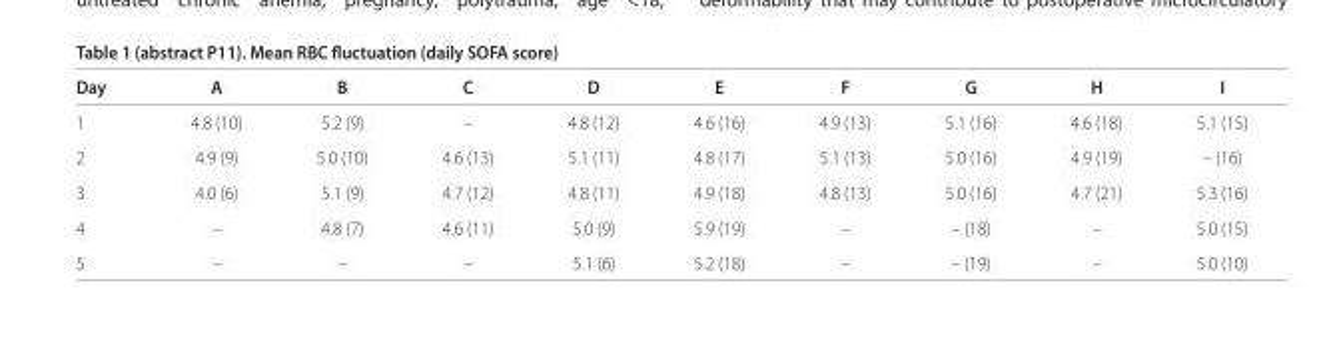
<table><thead><tr><td>Day</td><td>A</td><td>B</td><td>C</td><td>D</td><td>E</td><td>F</td><td>G</td><td>H</td><td>I</td></tr></thead><tbody><tr><td>1</td><td>4.8 (10)</td><td>5.2 (9)</td><td>–</td><td>4.8 (12)</td><td>4.6 (16)</td><td>4.9 (13)</td><td>5.1 (16)</td><td>4.6 (18)</td><td>5.1 (15)</td></tr><tr><td>2</td><td>4.9 (9)</td><td>5.0 (10)</td><td>4.6 (13)</td><td>5.1 (11)</td><td>4.8 (17)</td><td>5.1 (13)</td><td>5.0 (16)</td><td>4.9 (19)</td><td>– (16)</td></tr><tr><td>3</td><td>4.0 (6)</td><td>5.1 (9)</td><td>4.7 (12)</td><td>4.8 (11)</td><td>4.9 (18)</td><td>4.8 (13)</td><td>5.0 (16)</td><td>4.7 (21)</td><td>5.3 (16)</td></tr><tr><td>4</td><td>–</td><td>4.8 (7)</td><td>4.6 (11)</td><td>5.0 (9)</td><td>5.9 (19)</td><td>–</td><td>– (18)</td><td>–</td><td>5.0 (15)</td></tr><tr><td>5</td><td>–</td><td>–</td><td>–</td><td>5.1 (6)</td><td>5.2 (18)</td><td>–</td><td>– (19)</td><td>–</td><td>5.0 (10)</td></tr></tbody></table>